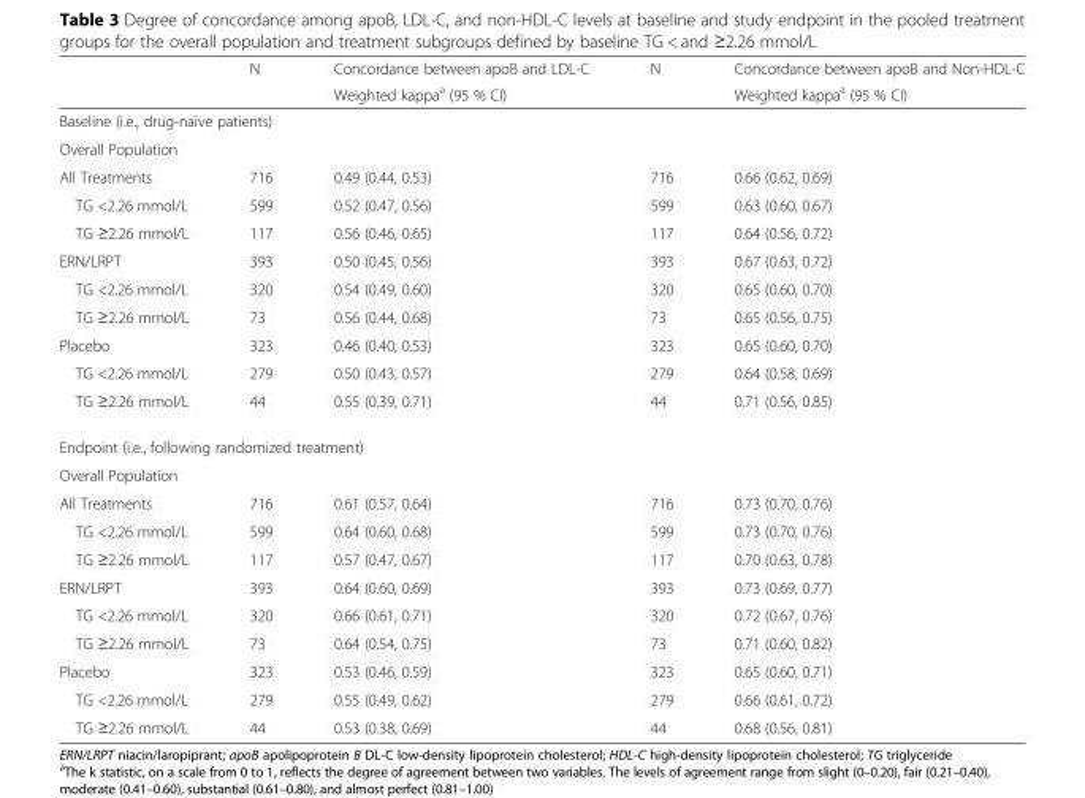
<table><thead><tr><td rowspan="2"></td><td rowspan="2">N</td><td rowspan="2">Concordance between apoB and LDL-C Weighted kappa<sup>a</sup> (95 % CI)</td><td rowspan="2">N</td><td rowspan="2">Concordance between apoB and Non-HDL-C Weighted kappa<sup>a</sup> (95 % CI)</td></tr><tr></tr></thead><tbody><tr><td colspan="5">Baseline (i.e., drug-naïve patients)</td></tr><tr><td colspan="5">Overall Population</td></tr><tr><td>All Treatments</td><td>716</td><td>0.49 (0.44, 0.53)</td><td>716</td><td>0.66 (0.62, 0.69)</td></tr><tr><td>TG &lt;2.26 mmol/L</td><td>599</td><td>0.52 (0.47, 0.56)</td><td>599</td><td>0.63 (0.60, 0.67)</td></tr><tr><td>TG ≥2.26 mmol/L</td><td>117</td><td>0.56 (0.46, 0.65)</td><td>117</td><td>0.64 (0.56, 0.72)</td></tr><tr><td>ERN/LRPT</td><td>393</td><td>0.50 (0.45, 0.56)</td><td>393</td><td>0.67 (0.63, 0.72)</td></tr><tr><td>TG &lt;2.26 mmol/L</td><td>320</td><td>0.54 (0.49, 0.60)</td><td>320</td><td>0.65 (0.60, 0.70)</td></tr><tr><td>TG ≥2.26 mmol/L</td><td>73</td><td>0.56 (0.44, 0.68)</td><td>73</td><td>0.65 (0.56, 0.75)</td></tr><tr><td>Placebo</td><td>323</td><td>0.46 (0.40, 0.53)</td><td>323</td><td>0.65 (0.60, 0.70)</td></tr><tr><td>TG &lt;2.26 mmol/L</td><td>279</td><td>0.50 (0.43, 0.57)</td><td>279</td><td>0.64 (0.58, 0.69)</td></tr><tr><td>TG ≥2.26 mmol/L</td><td>44</td><td>0.55 (0.39, 0.71)</td><td>44</td><td>0.71 (0.56, 0.85)</td></tr><tr><td colspan="5">Endpoint (i.e., following randomized treatment)</td></tr><tr><td colspan="5">Overall Population</td></tr><tr><td>All Treatments</td><td>716</td><td>0.61 (0.57, 0.64)</td><td>716</td><td>0.73 (0.70, 0.76)</td></tr><tr><td>TG &lt;2.26 mmol/L</td><td>599</td><td>0.64 (0.60, 0.68)</td><td>599</td><td>0.73 (0.70, 0.76)</td></tr><tr><td>TG ≥2.26 mmol/L</td><td>117</td><td>0.57 (0.47, 0.67)</td><td>117</td><td>0.70 (0.63, 0.78)</td></tr><tr><td>ERN/LRPT</td><td>393</td><td>0.64 (0.60, 0.69)</td><td>393</td><td>0.73 (0.69, 0.77)</td></tr><tr><td>TG &lt;2.26 mmol/L</td><td>320</td><td>0.66 (0.61, 0.71)</td><td>320</td><td>0.72 (0.67, 0.76)</td></tr><tr><td>TG ≥2.26 mmol/L</td><td>73</td><td>0.64 (0.54, 0.75)</td><td>73</td><td>0.71 (0.60, 0.82)</td></tr><tr><td>Placebo</td><td>323</td><td>0.53 (0.46, 0.59)</td><td>323</td><td>0.65 (0.60, 0.71)</td></tr><tr><td>TG &lt;2.26 mmol/L</td><td>279</td><td>0.55 (0.49, 0.62)</td><td>279</td><td>0.66 (0.61, 0.72)</td></tr><tr><td>TG ≥2.26 mmol/L</td><td>44</td><td>0.53 (0.38, 0.69)</td><td>44</td><td>0.68 (0.56, 0.81)</td></tr></tbody></table>